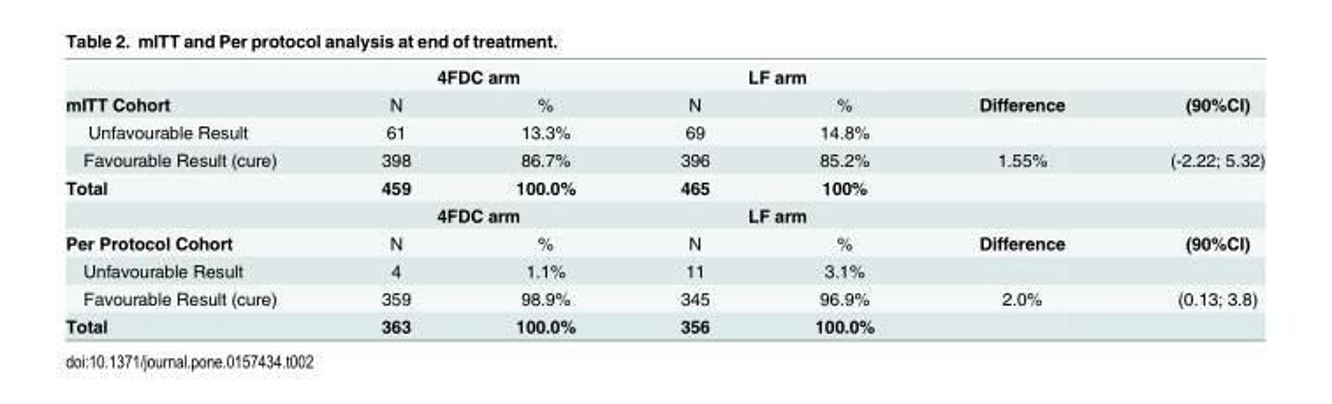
<table><thead><tr><td rowspan="2">mITT Cohort</td><td colspan="2">4FDC arm</td><td colspan="2">LF arm</td><td rowspan="2">Difference</td><td rowspan="2">(90%CI)</td></tr><tr><td>N</td><td>%</td><td>N</td><td>%</td></tr></thead><tbody><tr><td>Unfavourable Result</td><td>61</td><td>13.3%</td><td>69</td><td>14.8%</td><td></td><td></td></tr><tr><td>Favourable Result (cure)</td><td>398</td><td>86.7%</td><td>396</td><td>85.2%</td><td>1.55%</td><td>(-2.22; 5.32)</td></tr><tr><td rowspan="2">Total</td><td>459</td><td>100.0%</td><td>465</td><td>100%</td><td></td><td></td></tr><tr><td colspan="2">4FDC arm</td><td colspan="2">LF arm</td><td colspan="2"></td></tr><tr><td>Per Protocol Cohort</td><td>N</td><td>%</td><td>N</td><td>%</td><td>Difference</td><td>(90%CI)</td></tr><tr><td>Unfavourable Result</td><td>4</td><td>1.1%</td><td>11</td><td>3.1%</td><td></td><td></td></tr><tr><td>Favourable Result (cure)</td><td>359</td><td>98.9%</td><td>345</td><td>96.9%</td><td>2.0%</td><td>(0.13; 3.8)</td></tr><tr><td>Total</td><td>363</td><td>100.0%</td><td>356</td><td>100.0%</td><td></td><td></td></tr></tbody></table>